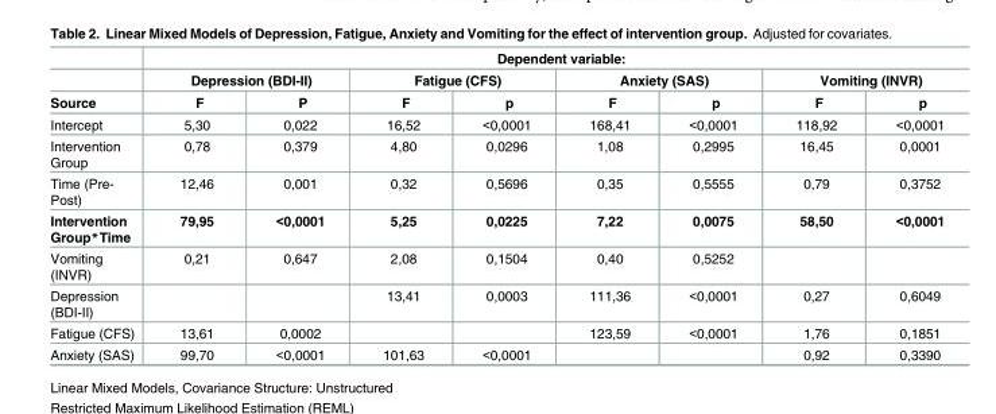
<table><thead><tr><td rowspan="3">Source</td><td colspan="8">Dependent variable:</td></tr><tr><td colspan="2">Depression (BDI-II)</td><td colspan="2">Fatigue (CFS)</td><td colspan="2">Anxiety (SAS)</td><td colspan="2">Vomiting (INVR)</td></tr><tr><td>F</td><td>P</td><td>F</td><td>p</td><td>F</td><td>p</td><td>F</td><td>p</td></tr></thead><tbody><tr><td>Intercept</td><td>5,30</td><td>0,022</td><td>16,52</td><td>&lt;0,0001</td><td>168,41</td><td>&lt;0,0001</td><td>118,92</td><td>&lt;0,0001</td></tr><tr><td>Intervention Group</td><td>0,78</td><td>0,379</td><td>4,80</td><td>0,0296</td><td>1,08</td><td>0,2995</td><td>16,45</td><td>0,0001</td></tr><tr><td>Time (Pre- Post)</td><td>12,46</td><td>0,001</td><td>0,32</td><td>0,5696</td><td>0,35</td><td>0,5555</td><td>0,79</td><td>0,3752</td></tr><tr><td>Intervention Group*Time</td><td>79,95</td><td>&lt;0,0001</td><td>5,25</td><td>0,0225</td><td>7,22</td><td>0,0075</td><td>58,50</td><td>&lt;0,0001</td></tr><tr><td>Vomiting (INVR)</td><td>0,21</td><td>0,647</td><td>2,08</td><td>0,1504</td><td>0,40</td><td>0,5252</td><td></td><td></td></tr><tr><td>Depression (BDI-II)</td><td></td><td></td><td>13,41</td><td>0,0003</td><td>111,36</td><td>&lt;0,0001</td><td>0,27</td><td>0,6049</td></tr><tr><td>Fatigue (CFS)</td><td>13,61</td><td>0,0002</td><td></td><td></td><td>123,59</td><td>&lt;0,0001</td><td>1,76</td><td>0,1851</td></tr><tr><td>Anxiety (SAS)</td><td>99,70</td><td>&lt;0,0001</td><td>101,63</td><td>&lt;0,0001</td><td></td><td></td><td>0,92</td><td>0,3390</td></tr></tbody></table>